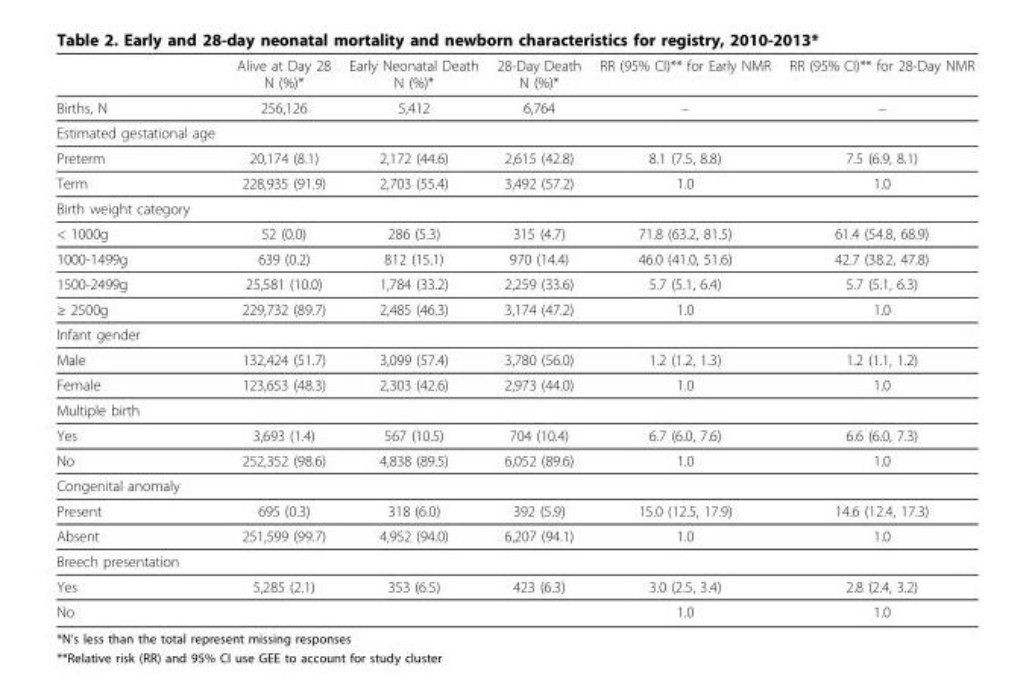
<table><thead><tr><td></td><td>Alive at Day 28 N (%)*</td><td>Early Neonatal Death N (%)*</td><td>28-Day Death N (%)*</td><td>RR (95% CI)** for Early NMR</td><td>RR (95% CI)** for 28-Day NMR</td></tr></thead><tbody><tr><td>Births, N</td><td>256,126</td><td>5,412</td><td>6,764</td><td>–</td><td>–</td></tr><tr><td colspan="6">Estimated gestational age</td></tr><tr><td>Preterm</td><td>20,174 (8.1)</td><td>2,172 (44.6)</td><td>2,615 (42.8)</td><td>8.1 (7.5, 8.8)</td><td>7.5 (6.9, 8.1)</td></tr><tr><td>Term</td><td>228,935 (91.9)</td><td>2,703 (55.4)</td><td>3,492 (57.2)</td><td>1.0</td><td>1.0</td></tr><tr><td colspan="6">Birth weight category</td></tr><tr><td>&lt; 1000g</td><td>52 (0.0)</td><td>286 (5.3)</td><td>315 (4.7)</td><td>71.8 (63.2, 81.5)</td><td>61.4 (54.8, 68.9)</td></tr><tr><td>1000-1499g</td><td>639 (0.2)</td><td>812 (15.1)</td><td>970 (14.4)</td><td>46.0 (41.0, 51.6)</td><td>42.7 (38.2, 47.8)</td></tr><tr><td>1500-2499g</td><td>25,581 (10.0)</td><td>1,784 (33.2)</td><td>2,259 (33.6)</td><td>5.7 (5.1, 6.4)</td><td>5.7 (5.1, 6.3)</td></tr><tr><td>≥ 2500g</td><td>229,732 (89.7)</td><td>2,485 (46.3)</td><td>3,174 (47.2)</td><td>1.0</td><td>1.0</td></tr><tr><td colspan="6">Infant gender</td></tr><tr><td>Male</td><td>132,424 (51.7)</td><td>3,099 (57.4)</td><td>3,780 (56.0)</td><td>1.2 (1.2, 1.3)</td><td>1.2 (1.1, 1.2)</td></tr><tr><td>Female</td><td>123,653 (48.3)</td><td>2,303 (42.6)</td><td>2,973 (44.0)</td><td>1.0</td><td>1.0</td></tr><tr><td colspan="6">Multiple birth</td></tr><tr><td>Yes</td><td>3,693 (1.4)</td><td>567 (10.5)</td><td>704 (10.4)</td><td>6.7 (6.0, 7.6)</td><td>6.6 (6.0, 7.3)</td></tr><tr><td>No</td><td>252,352 (98.6)</td><td>4,838 (89.5)</td><td>6,052 (89.6)</td><td>1.0</td><td>1.0</td></tr><tr><td colspan="6">Congenital anomaly</td></tr><tr><td>Present</td><td>695 (0.3)</td><td>318 (6.0)</td><td>392 (5.9)</td><td>15.0 (12.5, 17.9)</td><td>14.6 (12.4, 17.3)</td></tr><tr><td>Absent</td><td>251,599 (99.7)</td><td>4,952 (94.0)</td><td>6,207 (94.1)</td><td>1.0</td><td>1.0</td></tr><tr><td colspan="6">Breech presentation</td></tr><tr><td>Yes</td><td>5,285 (2.1)</td><td>353 (6.5)</td><td>423 (6.3)</td><td>3.0 (2.5, 3.4)</td><td>2.8 (2.4, 3.2)</td></tr><tr><td>No</td><td></td><td></td><td></td><td>1.0</td><td>1.0</td></tr></tbody></table>